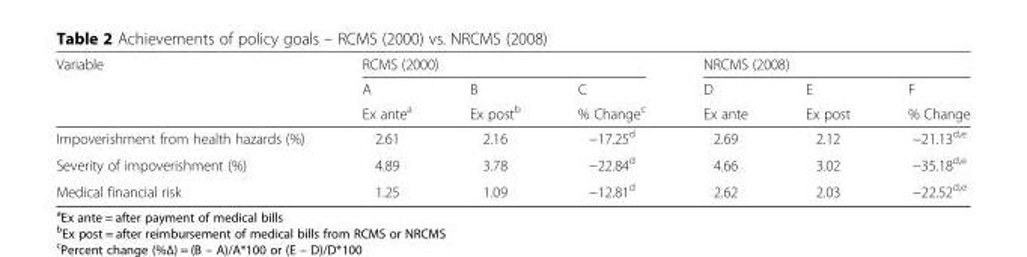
<table><thead><tr><td rowspan="3">Variable</td><td colspan="3">RCMS (2000)</td><td colspan="3">NRCMS (2008)</td></tr><tr><td rowspan="2">A Ex ante<sup>a</sup></td><td rowspan="2">B Ex post<sup>b</sup></td><td rowspan="2">C % Change<sup>c</sup></td><td rowspan="2">D Ex ante</td><td rowspan="2">E Ex post</td><td rowspan="2">F % Change</td></tr><tr></tr></thead><tbody><tr><td>Impoverishment from health hazards (%)</td><td>2.61</td><td>2.16</td><td>−17.25<sup>d</sup></td><td>2.69</td><td>2.12</td><td>−21.13<sup>d,e</sup></td></tr><tr><td>Severity of impoverishment (%)</td><td>4.89</td><td>3.78</td><td>−22.84<sup>d</sup></td><td>4.66</td><td>3.02</td><td>−35.18<sup>d,e</sup></td></tr><tr><td>Medical financial risk</td><td>1.25</td><td>1.09</td><td>−12.81<sup>d</sup></td><td>2.62</td><td>2.03</td><td>−22.52<sup>d,e</sup></td></tr></tbody></table>